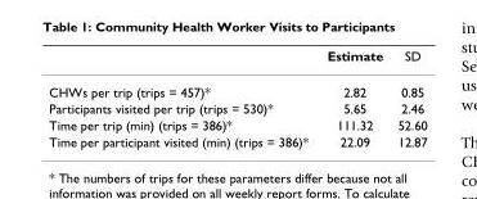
<table><thead><tr><td></td><td>Estimate</td><td>SD</td></tr></thead><tbody><tr><td>CHWs per trip (trips = 457)*</td><td>2.82</td><td>0.85</td></tr><tr><td>Participants visited per trip (trips = 530)*</td><td>5.65</td><td>2.46</td></tr><tr><td>Time per trip (min) (trips = 386)*</td><td>111.32</td><td>52.60</td></tr><tr><td>Time per participant visited (min) (trips = 386)*</td><td>22.09</td><td>12.87</td></tr></tbody></table>